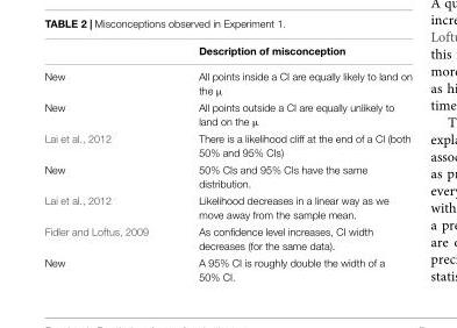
<table><thead><tr><td></td><td>Description of misconception</td></tr></thead><tbody><tr><td>New</td><td>All points inside a CI are equally likely to land on the µ</td></tr><tr><td>New</td><td>All points outside a CI are equally unlikely to land on the µ</td></tr><tr><td>Lai et al., 2012</td><td>There is a likelihood cliff at the end of a CI (both 50% and 95% CIs)</td></tr><tr><td>New</td><td>50% CIs and 95% CIs have the same distribution.</td></tr><tr><td>Lai et al., 2012</td><td>Likelihood decreases in a linear way as we move away from the sample mean.</td></tr><tr><td>Fidler and Loftus, 2009</td><td>As confidence level increases, CI width decreases (for the same data).</td></tr><tr><td>New</td><td>A 95% CI is roughly double the width of a 50% CI.</td></tr></tbody></table>